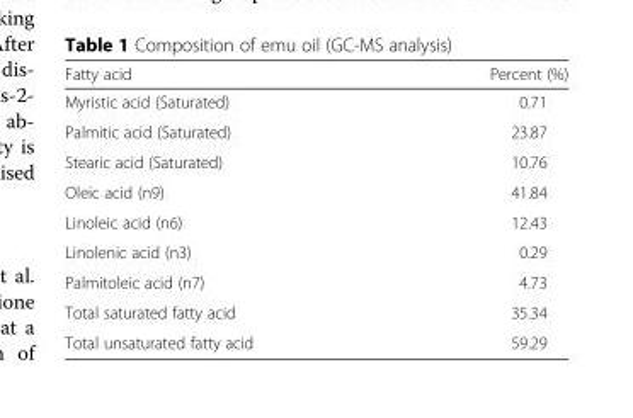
<table><thead><tr><td>Fatty acid</td><td>Percent (%)</td></tr></thead><tbody><tr><td>Myristic acid (Saturated)</td><td>0.71</td></tr><tr><td>Palmitic acid (Saturated)</td><td>23.87</td></tr><tr><td>Stearic acid (Saturated)</td><td>10.76</td></tr><tr><td>Oleic acid (n9)</td><td>41.84</td></tr><tr><td>Linoleic acid (n6)</td><td>12.43</td></tr><tr><td>Linolenic acid (n3)</td><td>0.29</td></tr><tr><td>Palmitoleic acid (n7)</td><td>4.73</td></tr><tr><td>Total saturated fatty acid</td><td>35.34</td></tr><tr><td>Total unsaturated fatty acid</td><td>59.29</td></tr></tbody></table>